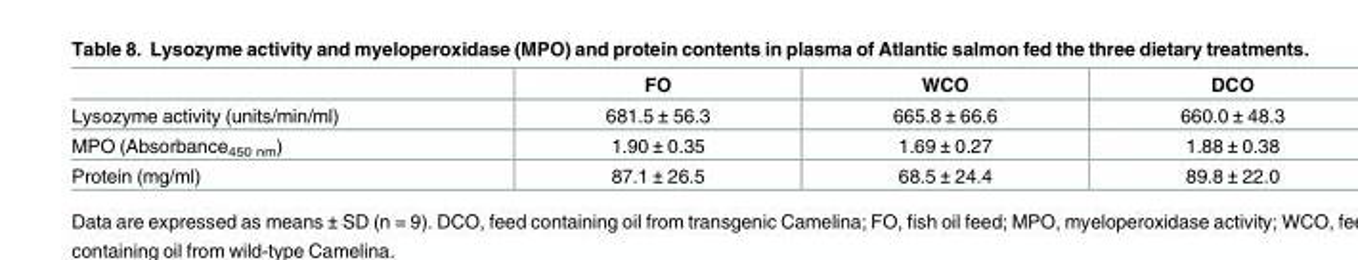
<table><thead><tr><td></td><td>FO</td><td>WCO</td><td>DCO</td></tr></thead><tbody><tr><td>Lysozyme activity (units/min/ml)</td><td>681.5 ± 56.3</td><td>665.8 ± 66.6</td><td>660.0 ± 48.3</td></tr><tr><td>MPO (Absorbance<sub>450 nm</sub>)</td><td>1.90 ± 0.35</td><td>1.69 ± 0.27</td><td>1.88 ± 0.38</td></tr><tr><td>Protein (mg/ml)</td><td>87.1 ± 26.5</td><td>68.5 ± 24.4</td><td>89.8 ± 22.0</td></tr></tbody></table>